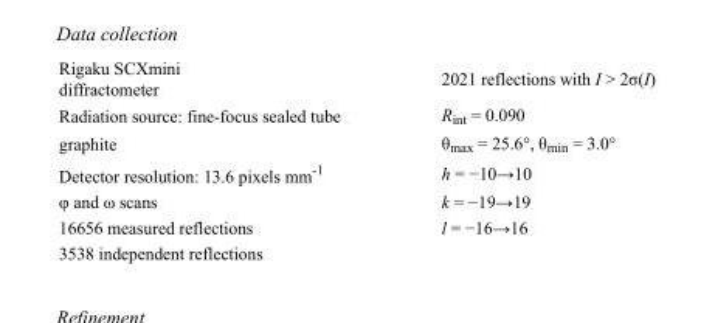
<table><tbody><tr><td>Rigaku SCXmini diffractometer</td><td>2021 reflections with I &gt; 2σ(I)</td></tr><tr><td>Radiation source: fine-focus sealed tube</td><td>R<sub>int</sub> = 0.090</td></tr><tr><td>graphite</td><td>θ<sub>max</sub> = 25.6°, θ<sub>min</sub> = 3.0°</td></tr><tr><td>Detector resolution: 13.6 pixels mm<sup>-1</sup></td><td>h = −10→10</td></tr><tr><td>φ and ω scans</td><td>k = −19→19</td></tr><tr><td>16656 measured reflections</td><td>l = −16→16</td></tr><tr><td>3538 independent reflections</td><td></td></tr></tbody></table>